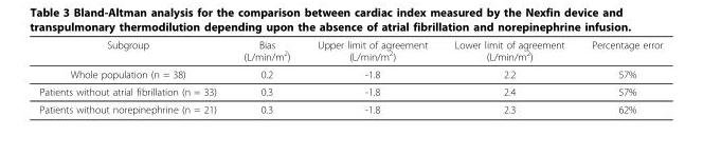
<table><thead><tr><td>Subgroup</td><td>Bias (L/min/m<sup>2</sup>)</td><td>Upper limit of agreement (L/min/m<sup>2</sup>)</td><td>Lower limit of agreement (L/min/m<sup>2</sup>)</td><td>Percentage error</td></tr></thead><tbody><tr><td>Whole population (n = 38)</td><td>0.2</td><td>-1.8</td><td>2.2</td><td>57%</td></tr><tr><td>Patients without atrial fibrillation (n = 33)</td><td>0.3</td><td>-1.8</td><td>2.4</td><td>57%</td></tr><tr><td>Patients without norepinephrine (n = 21)</td><td>0.3</td><td>-1.8</td><td>2.3</td><td>62%</td></tr></tbody></table>